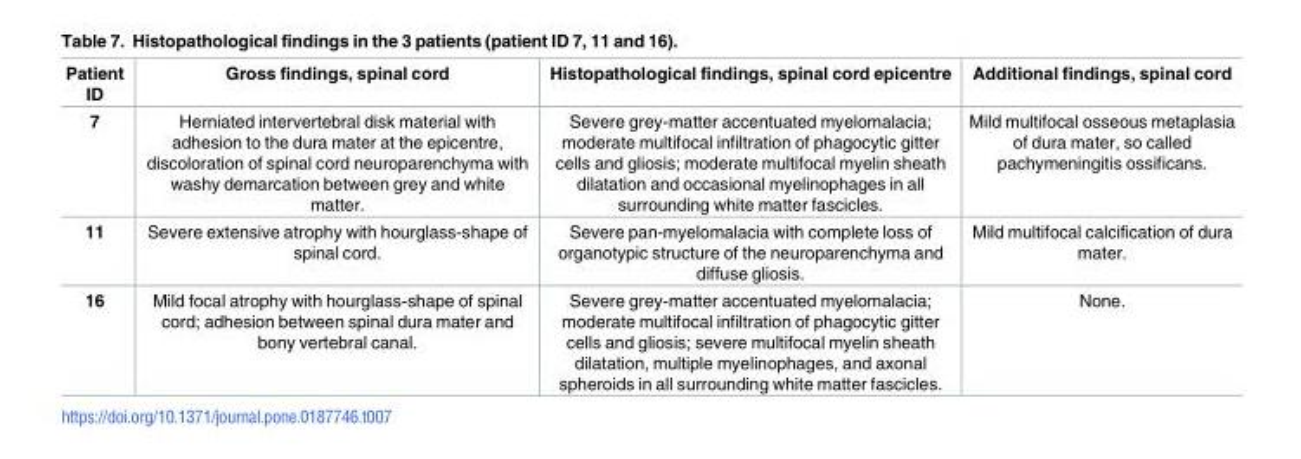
<table><thead><tr><td>Patient ID</td><td>Gross findings, spinal cord</td><td>Histopathological findings, spinal cord epicentre</td><td>Additional findings, spinal cord</td></tr></thead><tbody><tr><td>7</td><td>Herniated intervertebral disk material with adhesion to the dura mater at the epicentre, discoloration of spinal cord neuroparenchyma with washy demarcation between grey and white matter.</td><td>Severe grey-matter accentuated myelomalacia; moderate multifocal infiltration of phagocytic gitter cells and gliosis; moderate multifocal myelin sheath dilatation and occasional myelinophages in all surrounding white matter fascicles.</td><td>Mild multifocal osseous metaplasia of dura mater, so called pachymeningitis ossificans.</td></tr><tr><td>11</td><td>Severe extensive atrophy with hourglass-shape of spinal cord.</td><td>Severe pan-myelomalacia with complete loss of organotypic structure of the neuroparenchyma and diffuse gliosis.</td><td>Mild multifocal calcification of dura mater.</td></tr><tr><td>16</td><td>Mild focal atrophy with hourglass-shape of spinal cord; adhesion between spinal dura mater and bony vertebral canal.</td><td>Severe grey-matter accentuated myelomalacia; moderate multifocal infiltration of phagocytic gitter cells and gliosis; severe multifocal myelin sheath dilatation, multiple myelinophages, and axonal spheroids in all surrounding white matter fascicles.</td><td>None.</td></tr></tbody></table>